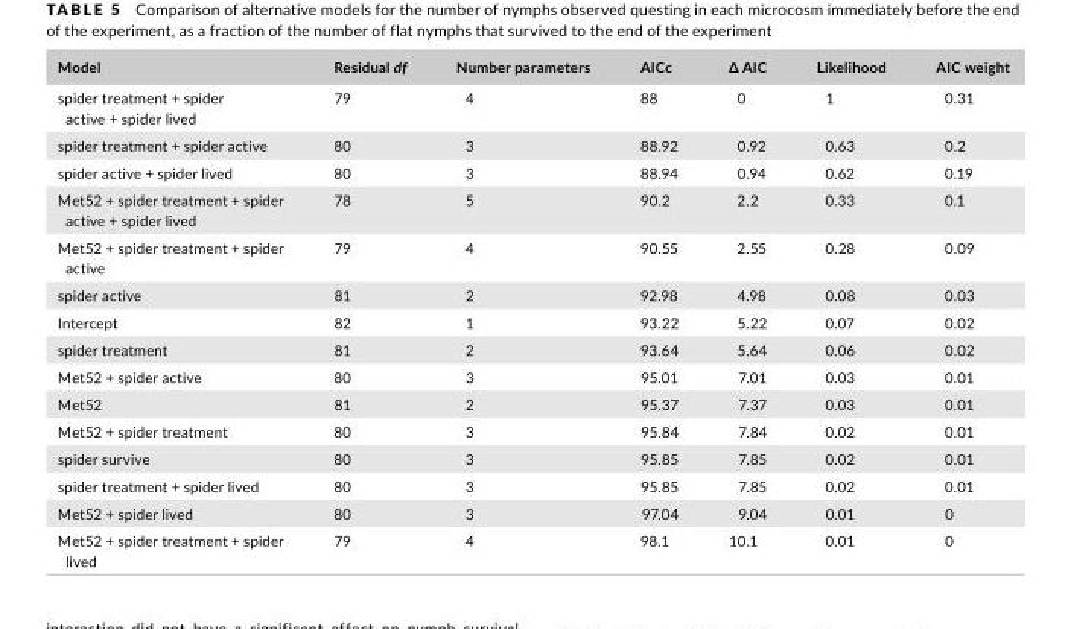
<table><thead><tr><td>Model</td><td>Residual df</td><td>Number parameters</td><td>AICc</td><td>∆ AIC</td><td>Likelihood</td><td>AIC weight</td></tr></thead><tbody><tr><td>spider treatment + spider active + spider lived</td><td>79</td><td>4</td><td>88</td><td>0</td><td>1</td><td>0.31</td></tr><tr><td>spider treatment + spider active</td><td>80</td><td>3</td><td>88.92</td><td>0.92</td><td>0.63</td><td>0.2</td></tr><tr><td>spider active + spider lived</td><td>80</td><td>3</td><td>88.94</td><td>0.94</td><td>0.62</td><td>0.19</td></tr><tr><td>Met52 + spider treatment + spider active + spider lived</td><td>78</td><td>5</td><td>90.2</td><td>2.2</td><td>0.33</td><td>0.1</td></tr><tr><td>Met52 + spider treatment + spider active</td><td>79</td><td>4</td><td>90.55</td><td>2.55</td><td>0.28</td><td>0.09</td></tr><tr><td>spider active</td><td>81</td><td>2</td><td>92.98</td><td>4.98</td><td>0.08</td><td>0.03</td></tr><tr><td>Intercept</td><td>82</td><td>1</td><td>93.22</td><td>5.22</td><td>0.07</td><td>0.02</td></tr><tr><td>spider treatment</td><td>81</td><td>2</td><td>93.64</td><td>5.64</td><td>0.06</td><td>0.02</td></tr><tr><td>Met52 + spider active</td><td>80</td><td>3</td><td>95.01</td><td>7.01</td><td>0.03</td><td>0.01</td></tr><tr><td>Met52</td><td>81</td><td>2</td><td>95.37</td><td>7.37</td><td>0.03</td><td>0.01</td></tr><tr><td>Met52 + spider treatment</td><td>80</td><td>3</td><td>95.84</td><td>7.84</td><td>0.02</td><td>0.01</td></tr><tr><td>spider survive</td><td>80</td><td>3</td><td>95.85</td><td>7.85</td><td>0.02</td><td>0.01</td></tr><tr><td>spider treatment + spider lived</td><td>80</td><td>3</td><td>95.85</td><td>7.85</td><td>0.02</td><td>0.01</td></tr><tr><td>Met52 + spider lived</td><td>80</td><td>3</td><td>97.04</td><td>9.04</td><td>0.01</td><td>0</td></tr><tr><td>Met52 + spider treatment + spider lived</td><td>79</td><td>4</td><td>98.1</td><td>10.1</td><td>0.01</td><td>0</td></tr></tbody></table>